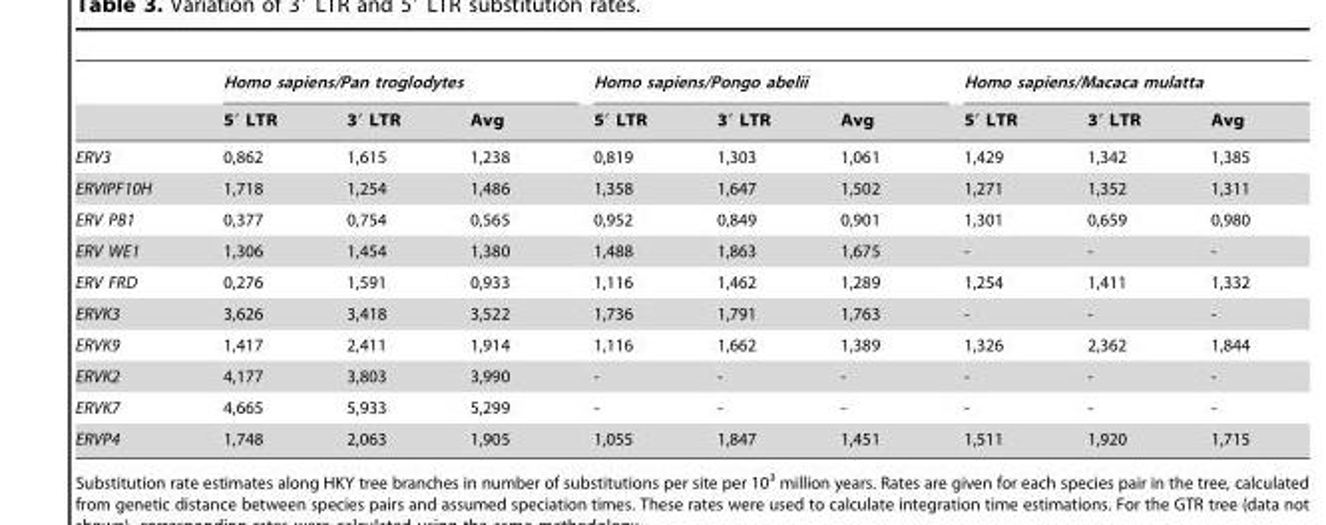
<table><thead><tr><td rowspan="2"></td><td colspan="3">Homo sapiens/Pan troglodytes</td><td colspan="3">Homo sapiens/Pongo abelii</td><td colspan="3">Homo sapiens/Macaca mulatta</td></tr><tr><td>5′ LTR</td><td>3′ LTR</td><td>Avg</td><td>5′ LTR</td><td>3′ LTR</td><td>Avg</td><td>5′ LTR</td><td>3′ LTR</td><td>Avg</td></tr></thead><tbody><tr><td>ERV3</td><td>0,862</td><td>1,615</td><td>1,238</td><td>0,819</td><td>1,303</td><td>1,061</td><td>1,429</td><td>1,342</td><td>1,385</td></tr><tr><td>ERVIPF10H</td><td>1,718</td><td>1,254</td><td>1,486</td><td>1,358</td><td>1,647</td><td>1,502</td><td>1,271</td><td>1,352</td><td>1,311</td></tr><tr><td>ERV PB1</td><td>0,377</td><td>0,754</td><td>0,565</td><td>0,952</td><td>0,849</td><td>0,901</td><td>1,301</td><td>0,659</td><td>0,980</td></tr><tr><td>ERV WE1</td><td>1,306</td><td>1,454</td><td>1,380</td><td>1,488</td><td>1,863</td><td>1,675</td><td>-</td><td>-</td><td>-</td></tr><tr><td>ERV FRD</td><td>0,276</td><td>1,591</td><td>0,933</td><td>1,116</td><td>1,462</td><td>1,289</td><td>1,254</td><td>1,411</td><td>1,332</td></tr><tr><td>ERVK3</td><td>3,626</td><td>3,418</td><td>3,522</td><td>1,736</td><td>1,791</td><td>1,763</td><td>-</td><td>-</td><td>-</td></tr><tr><td>ERVK9</td><td>1,417</td><td>2,411</td><td>1,914</td><td>1,116</td><td>1,662</td><td>1,389</td><td>1,326</td><td>2,362</td><td>1,844</td></tr><tr><td>ERVK2</td><td>4,177</td><td>3,803</td><td>3,990</td><td>-</td><td>-</td><td>-</td><td>-</td><td>-</td><td>-</td></tr><tr><td>ERVK7</td><td>4,665</td><td>5,933</td><td>5,299</td><td>-</td><td>-</td><td>-</td><td>-</td><td>-</td><td>-</td></tr><tr><td>ERVP4</td><td>1,748</td><td>2,063</td><td>1,905</td><td>1,055</td><td>1,847</td><td>1,451</td><td>1,511</td><td>1,920</td><td>1,715</td></tr></tbody></table>